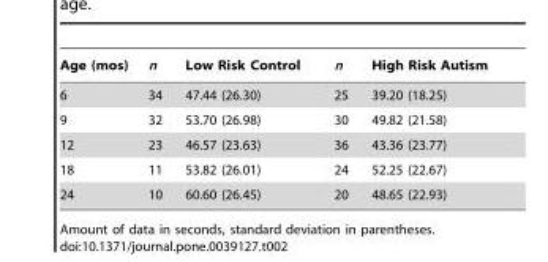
<table><thead><tr><td>Age (mos)</td><td>n</td><td>Low Risk Control</td><td>n</td><td>High Risk Autism</td></tr></thead><tbody><tr><td>6</td><td>34</td><td>47.44 (26.30)</td><td>25</td><td>39.20 (18.25)</td></tr><tr><td>9</td><td>32</td><td>53.70 (26.98)</td><td>30</td><td>49.82 (21.58)</td></tr><tr><td>12</td><td>23</td><td>46.57 (23.63)</td><td>36</td><td>43.36 (23.77)</td></tr><tr><td>18</td><td>11</td><td>53.82 (26.01)</td><td>24</td><td>52.25 (22.67)</td></tr><tr><td>24</td><td>10</td><td>60.60 (26.45)</td><td>20</td><td>48.65 (22.93)</td></tr></tbody></table>